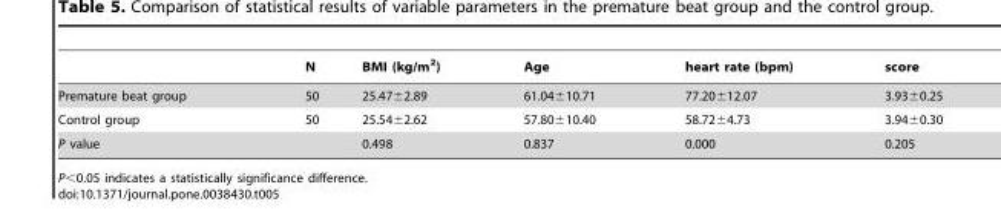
<table><thead><tr><td></td><td>N</td><td>BMI (kg/m<sup>2</sup>)</td><td>Age</td><td>heart rate (bpm)</td><td>score</td></tr></thead><tbody><tr><td>Premature beat group</td><td>50</td><td>25.47±2.89</td><td>61.04±10.71</td><td>77.20±12.07</td><td>3.93±0.25</td></tr><tr><td>Control group</td><td>50</td><td>25.54±2.62</td><td>57.80±10.40</td><td>58.72±4.73</td><td>3.94±0.30</td></tr><tr><td>P value</td><td></td><td>0.498</td><td>0.837</td><td>0.000</td><td>0.205</td></tr></tbody></table>